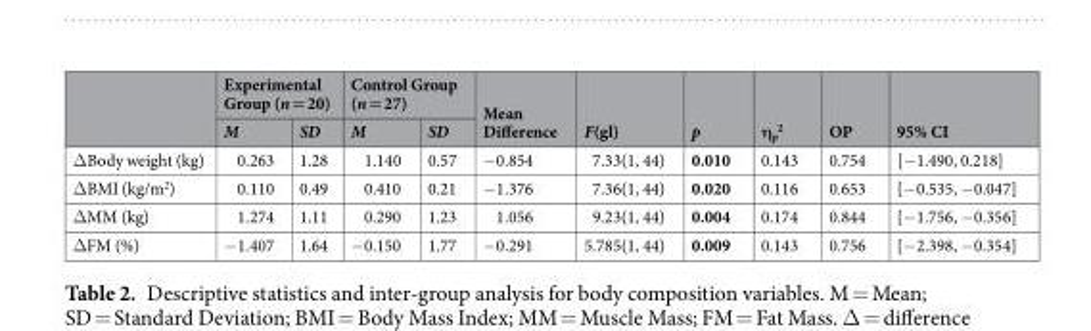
<table><thead><tr><td rowspan="2"></td><td colspan="2">Experimental Group (n = 20)</td><td colspan="2">Control Group (n = 27)</td><td rowspan="2">Mean Difference</td><td rowspan="2">F(gl)</td><td rowspan="2">p</td><td rowspan="2">η<sub>p</sub> <sup>2</sup></td><td rowspan="2">OP</td><td rowspan="2">95% CI</td></tr><tr><td>M</td><td>SD</td><td>M</td><td>SD</td></tr></thead><tbody><tr><td>ΔBody weight (kg)</td><td>0.263</td><td>1.28</td><td>1.140</td><td>0.57</td><td>−0.854</td><td>7.33(1, 44)</td><td>0.010</td><td>0.143</td><td>0.754</td><td>[−1.490, 0.218]</td></tr><tr><td>ΔBMI (kg/m<sup>2</sup>)</td><td>0.110</td><td>0.49</td><td>0.410</td><td>0.21</td><td>−1.376</td><td>7.36(1, 44)</td><td>0.020</td><td>0.116</td><td>0.653</td><td>[−0.535, −0.047]</td></tr><tr><td>ΔMM (kg)</td><td>1.274</td><td>1.11</td><td>0.290</td><td>1.23</td><td>1.056</td><td>9.23(1, 44)</td><td>0.004</td><td>0.174</td><td>0.844</td><td>[−1.756, −0.356]</td></tr><tr><td>ΔFM (%)</td><td>−1.407</td><td>1.64</td><td>−0.150</td><td>1.77</td><td>−0.291</td><td>5.785(1, 44)</td><td>0.009</td><td>0.143</td><td>0.756</td><td>[−2.398, −0.354]</td></tr></tbody></table>